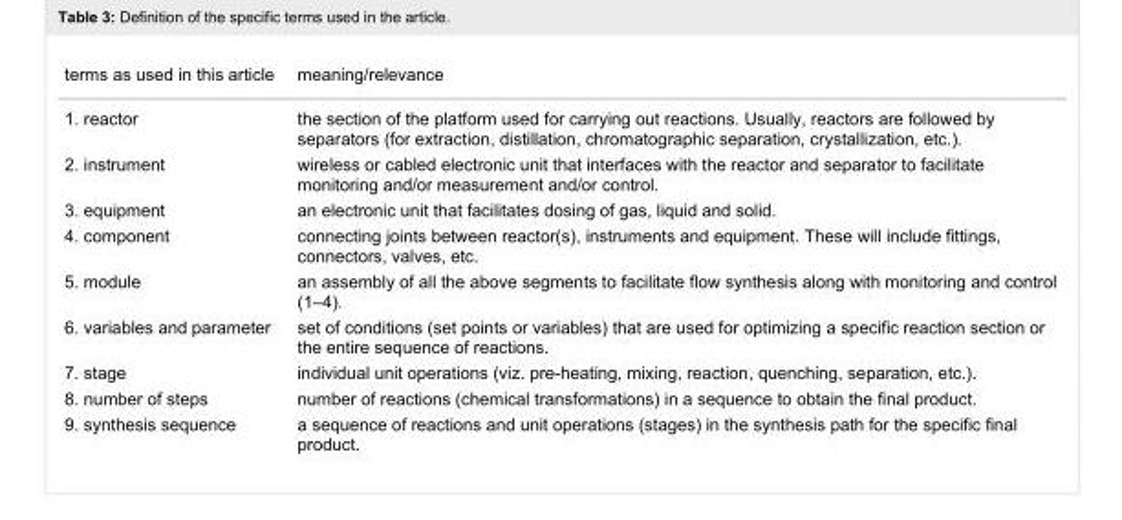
<table><tbody><tr><td>terms as used in this article</td><td>meaning/relevance</td></tr><tr><td>1. reactor</td><td>the section of the platform used for carrying out reactions. Usually, reactors are followed by separators (for extraction, distillation, chromatographic separation, crystallization, etc.).</td></tr><tr><td>2. instrument</td><td>wireless or cabled electronic unit that interfaces with the reactor and separator to facilitate monitoring and/or measurement and/or control.</td></tr><tr><td>3. equipment</td><td>an electronic unit that facilitates dosing of gas, liquid and solid.</td></tr><tr><td>4. component</td><td>connecting joints between reactor(s), instruments and equipment. These will include fittings, connectors, valves, etc.</td></tr><tr><td>5. module</td><td>an assembly of all the above segments to facilitate flow synthesis along with monitoring and control (1–4).</td></tr><tr><td>6. variables and parameter</td><td>set of conditions (set points or variables) that are used for optimizing a specific reaction section or the entire sequence of reactions.</td></tr><tr><td>7. stage</td><td>individual unit operations (viz. pre-heating, mixing, reaction, quenching, separation, etc.).</td></tr><tr><td>8. number of steps</td><td>number of reactions (chemical transformations) in a sequence to obtain the final product.</td></tr><tr><td>9. synthesis sequence</td><td>a sequence of reactions and unit operations (stages) in the synthesis path for the specific final product.</td></tr></tbody></table>